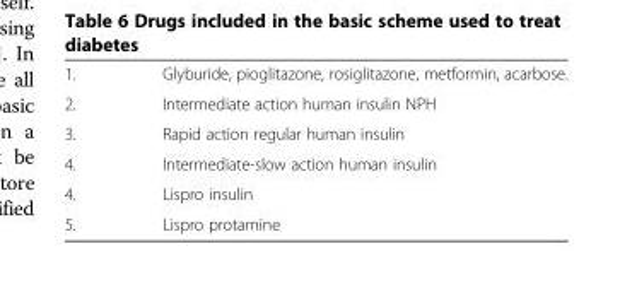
<table><tbody><tr><td>1.</td><td>Glyburide, pioglitazone, rosiglitazone, metformin, acarbose.</td></tr><tr><td>2.</td><td>Intermediate action human insulin NPH</td></tr><tr><td>3.</td><td>Rapid action regular human insulin</td></tr><tr><td>4.</td><td>Intermediate-slow action human insulin</td></tr><tr><td>4.</td><td>Lispro insulin</td></tr><tr><td>5.</td><td>Lispro protamine</td></tr></tbody></table>